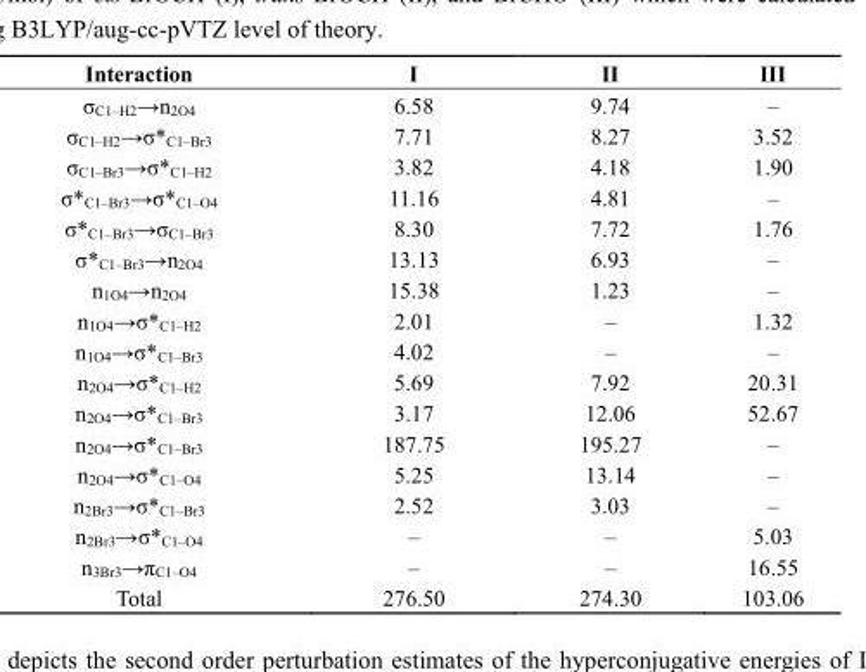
<table><thead><tr><td>Interaction</td><td>I</td><td>II</td><td>III</td></tr></thead><tbody><tr><td>σ<sub>C1–H2</sub>→n<sub>2O4</sub></td><td>6.58</td><td>9.74</td><td>–</td></tr><tr><td>σ<sub>C1–H2</sub>→σ*<sub>C1–Br3</sub></td><td>7.71</td><td>8.27</td><td>3.52</td></tr><tr><td>σ<sub>C1–Br3</sub>→σ*<sub>C1–H2</sub></td><td>3.82</td><td>4.18</td><td>1.90</td></tr><tr><td>σ*<sub>C1–Br3</sub>→σ*<sub>C1–O4</sub></td><td>11.16</td><td>4.81</td><td>–</td></tr><tr><td>σ*<sub>C1–Br3</sub>→σ<sub>C1–Br3</sub></td><td>8.30</td><td>7.72</td><td>1.76</td></tr><tr><td>σ*<sub>C1–Br3</sub>→n<sub>2O4</sub></td><td>13.13</td><td>6.93</td><td>–</td></tr><tr><td>n<sub>1O4</sub>→n<sub>2O4</sub></td><td>15.38</td><td>1.23</td><td>–</td></tr><tr><td>n<sub>1O4</sub>→σ*<sub>C1–H2</sub></td><td>2.01</td><td>–</td><td>1.32</td></tr><tr><td>n<sub>1O4</sub>→σ*<sub>C1–Br3</sub></td><td>4.02</td><td>–</td><td>–</td></tr><tr><td>n<sub>2O4</sub>→σ*<sub>C1–H2</sub></td><td>5.69</td><td>7.92</td><td>20.31</td></tr><tr><td>n<sub>2O4</sub>→σ*<sub>C1–Br3</sub></td><td>3.17</td><td>12.06</td><td>52.67</td></tr><tr><td>n<sub>2O4</sub>→σ*<sub>C1–Br3</sub></td><td>187.75</td><td>195.27</td><td>–</td></tr><tr><td>n<sub>2O4</sub>→σ*<sub>C1–O4</sub></td><td>5.25</td><td>13.14</td><td>–</td></tr><tr><td>n<sub>2Br3</sub>→σ*<sub>C1–Br3</sub></td><td>2.52</td><td>3.03</td><td>–</td></tr><tr><td>n<sub>2Br3</sub>→σ*<sub>C1–O4</sub></td><td>–</td><td>–</td><td>5.03</td></tr><tr><td>n<sub>3Br3</sub>→π<sub>C1–O4</sub></td><td>–</td><td>–</td><td>16.55</td></tr><tr><td>Total</td><td>276.50</td><td>274.30</td><td>103.06</td></tr></tbody></table>